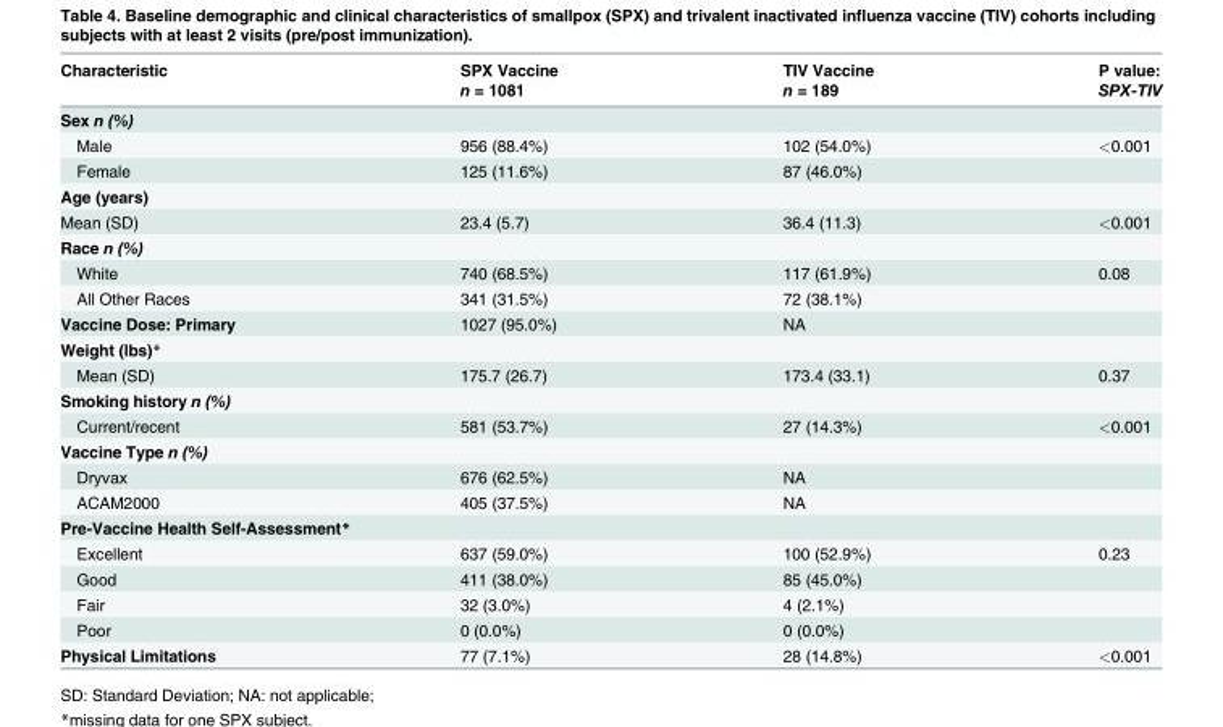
<table><thead><tr><td rowspan="2">Characteristic</td><td rowspan="2">SPX Vaccine n = 1081</td><td rowspan="2">TIV Vaccine n = 189</td><td rowspan="2">P value: SPX-TIV</td></tr><tr></tr></thead><tbody><tr><td colspan="4">Sex n (%)</td></tr><tr><td>Male</td><td>956 (88.4%)</td><td>102 (54.0%)</td><td>&lt;0.001</td></tr><tr><td>Female</td><td>125 (11.6%)</td><td>87 (46.0%)</td><td></td></tr><tr><td colspan="4">Age (years)</td></tr><tr><td>Mean (SD)</td><td>23.4 (5.7)</td><td>36.4 (11.3)</td><td>&lt;0.001</td></tr><tr><td colspan="4">Race n (%)</td></tr><tr><td>White</td><td>740 (68.5%)</td><td>117 (61.9%)</td><td>0.08</td></tr><tr><td>All Other Races</td><td>341 (31.5%)</td><td>72 (38.1%)</td><td></td></tr><tr><td>Vaccine Dose: Primary</td><td>1027 (95.0%)</td><td>NA</td><td></td></tr><tr><td colspan="4">Weight (lbs)*</td></tr><tr><td>Mean (SD)</td><td>175.7 (26.7)</td><td>173.4 (33.1)</td><td>0.37</td></tr><tr><td colspan="4">Smoking history n (%)</td></tr><tr><td>Current/recent</td><td>581 (53.7%)</td><td>27 (14.3%)</td><td>&lt;0.001</td></tr><tr><td colspan="4">Vaccine Type n (%)</td></tr><tr><td>Dryvax</td><td>676 (62.5%)</td><td>NA</td><td></td></tr><tr><td>ACAM2000</td><td>405 (37.5%)</td><td>NA</td><td></td></tr><tr><td colspan="4">Pre-Vaccine Health Self-Assessment*</td></tr><tr><td>Excellent</td><td>637 (59.0%)</td><td>100 (52.9%)</td><td>0.23</td></tr><tr><td>Good</td><td>411 (38.0%)</td><td>85 (45.0%)</td><td></td></tr><tr><td>Fair</td><td>32 (3.0%)</td><td>4 (2.1%)</td><td></td></tr><tr><td>Poor</td><td>0 (0.0%)</td><td>0 (0.0%)</td><td></td></tr><tr><td>Physical Limitations</td><td>77 (7.1%)</td><td>28 (14.8%)</td><td>&lt;0.001</td></tr></tbody></table>